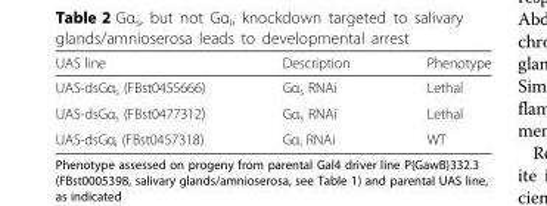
<table><thead><tr><td>UAS line</td><td>Description</td><td>Phenotype</td></tr></thead><tbody><tr><td>UAS-dsGα<sub>s</sub> (FBst0455666)</td><td>Gα<sub>s</sub> RNAi</td><td>Lethal</td></tr><tr><td>UAS-dsGα<sub>s</sub> (FBst0477312)</td><td>Gα<sub>s</sub> RNAi</td><td>Lethal</td></tr><tr><td>UAS-dsGα<sub>i</sub> (FBst0457318)</td><td>Gα<sub>i</sub> RNAi</td><td>WT</td></tr></tbody></table>